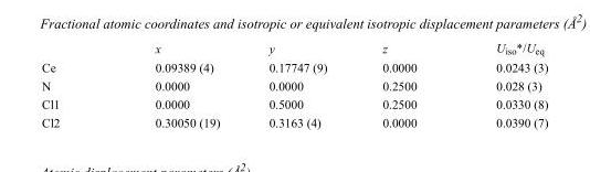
<table><thead><tr><td></td><td>x</td><td>y</td><td>z</td><td>U<sub>iso</sub>*/U<sub>eq</sub></td></tr></thead><tbody><tr><td>Ce</td><td>0.09389 (4)</td><td>0.17747 (9)</td><td>0.0000</td><td>0.0243 (3)</td></tr><tr><td>N</td><td>0.0000</td><td>0.0000</td><td>0.2500</td><td>0.028 (3)</td></tr><tr><td>Cl1</td><td>0.0000</td><td>0.5000</td><td>0.2500</td><td>0.0330 (8)</td></tr><tr><td>Cl2</td><td>0.30050 (19)</td><td>0.3163 (4)</td><td>0.0000</td><td>0.0390 (7)</td></tr></tbody></table>